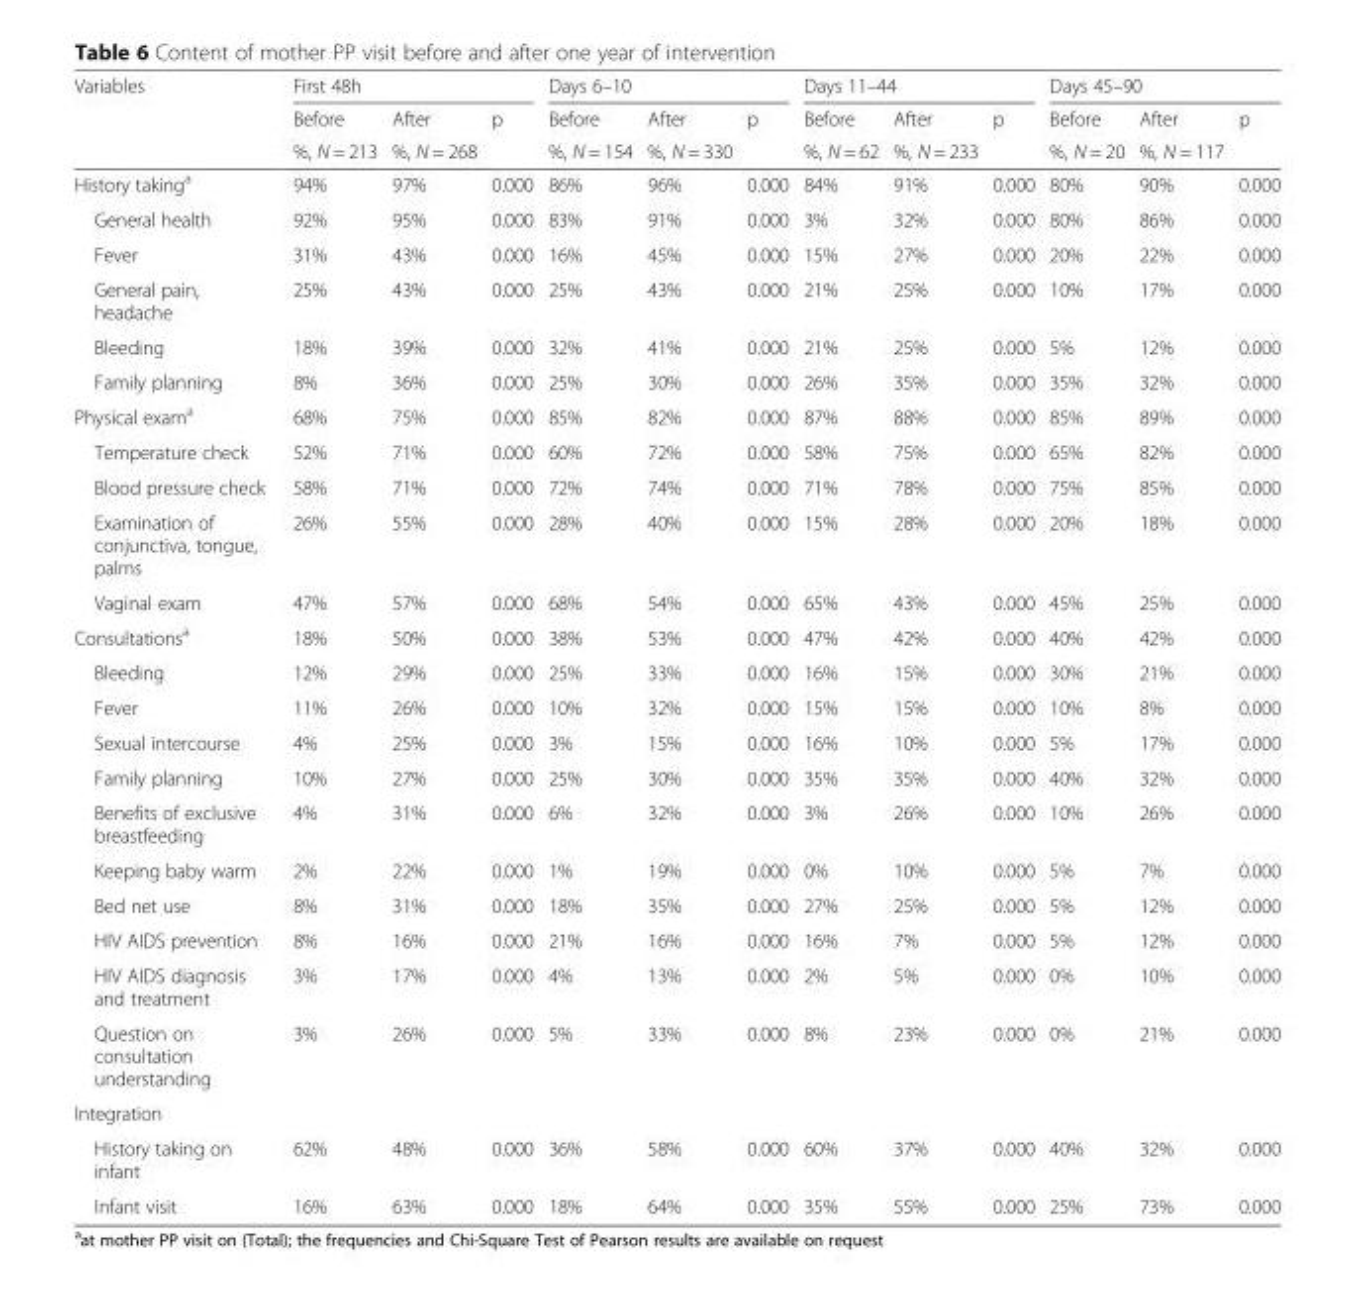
<table><thead><tr><td rowspan="3">Variables</td><td colspan="3">First 48h</td><td colspan="3">Days 6–10</td><td colspan="3">Days 11–44</td><td colspan="3">Days 45–90</td></tr><tr><td rowspan="2">Before %, N = 213</td><td rowspan="2">After %, N = 268</td><td rowspan="2">p</td><td rowspan="2">Before %, N = 154</td><td rowspan="2">After %, N = 330</td><td rowspan="2">p</td><td rowspan="2">Before %, N = 62</td><td rowspan="2">After %, N = 233</td><td rowspan="2">p</td><td rowspan="2">Before %, N = 20</td><td rowspan="2">After %, N = 117</td><td rowspan="2">p</td></tr><tr></tr></thead><tbody><tr><td>History taking<sup>a</sup></td><td>94%</td><td>97%</td><td>0.000</td><td>86%</td><td>96%</td><td>0.000</td><td>84%</td><td>91%</td><td>0.000</td><td>80%</td><td>90%</td><td>0.000</td></tr><tr><td>General health</td><td>92%</td><td>95%</td><td>0.000</td><td>83%</td><td>91%</td><td>0.000</td><td>3%</td><td>32%</td><td>0.000</td><td>80%</td><td>86%</td><td>0.000</td></tr><tr><td>Fever</td><td>31%</td><td>43%</td><td>0.000</td><td>16%</td><td>45%</td><td>0.000</td><td>15%</td><td>27%</td><td>0.000</td><td>20%</td><td>22%</td><td>0.000</td></tr><tr><td>General pain, headache</td><td>25%</td><td>43%</td><td>0.000</td><td>25%</td><td>43%</td><td>0.000</td><td>21%</td><td>25%</td><td>0.000</td><td>10%</td><td>17%</td><td>0.000</td></tr><tr><td>Bleeding</td><td>18%</td><td>39%</td><td>0.000</td><td>32%</td><td>41%</td><td>0.000</td><td>21%</td><td>25%</td><td>0.000</td><td>5%</td><td>12%</td><td>0.000</td></tr><tr><td>Family planning</td><td>8%</td><td>36%</td><td>0.000</td><td>25%</td><td>30%</td><td>0.000</td><td>26%</td><td>35%</td><td>0.000</td><td>35%</td><td>32%</td><td>0.000</td></tr><tr><td>Physical exam<sup>a</sup></td><td>68%</td><td>75%</td><td>0.000</td><td>85%</td><td>82%</td><td>0.000</td><td>87%</td><td>88%</td><td>0.000</td><td>85%</td><td>89%</td><td>0.000</td></tr><tr><td>Temperature check</td><td>52%</td><td>71%</td><td>0.000</td><td>60%</td><td>72%</td><td>0.000</td><td>58%</td><td>75%</td><td>0.000</td><td>65%</td><td>82%</td><td>0.000</td></tr><tr><td>Blood pressure check</td><td>58%</td><td>71%</td><td>0.000</td><td>72%</td><td>74%</td><td>0.000</td><td>71%</td><td>78%</td><td>0.000</td><td>75%</td><td>85%</td><td>0.000</td></tr><tr><td>Examination of conjunctiva, tongue, palms</td><td>26%</td><td>55%</td><td>0.000</td><td>28%</td><td>40%</td><td>0.000</td><td>15%</td><td>28%</td><td>0.000</td><td>20%</td><td>18%</td><td>0.000</td></tr><tr><td>Vaginal exam</td><td>47%</td><td>57%</td><td>0.000</td><td>68%</td><td>54%</td><td>0.000</td><td>65%</td><td>43%</td><td>0.000</td><td>45%</td><td>25%</td><td>0.000</td></tr><tr><td>Consultations<sup>a</sup></td><td>18%</td><td>50%</td><td>0.000</td><td>38%</td><td>53%</td><td>0.000</td><td>47%</td><td>42%</td><td>0.000</td><td>40%</td><td>42%</td><td>0.000</td></tr><tr><td>Bleeding</td><td>12%</td><td>29%</td><td>0.000</td><td>25%</td><td>33%</td><td>0.000</td><td>16%</td><td>15%</td><td>0.000</td><td>30%</td><td>21%</td><td>0.000</td></tr><tr><td>Fever</td><td>11%</td><td>26%</td><td>0.000</td><td>10%</td><td>32%</td><td>0.000</td><td>15%</td><td>15%</td><td>0.000</td><td>10%</td><td>8%</td><td>0.000</td></tr><tr><td>Sexual intercourse</td><td>4%</td><td>25%</td><td>0.000</td><td>3%</td><td>15%</td><td>0.000</td><td>16%</td><td>10%</td><td>0.000</td><td>5%</td><td>17%</td><td>0.000</td></tr><tr><td>Family planning</td><td>10%</td><td>27%</td><td>0.000</td><td>25%</td><td>30%</td><td>0.000</td><td>35%</td><td>35%</td><td>0.000</td><td>40%</td><td>32%</td><td>0.000</td></tr><tr><td>Benefits of exclusive breastfeeding</td><td>4%</td><td>31%</td><td>0.000</td><td>6%</td><td>32%</td><td>0.000</td><td>3%</td><td>26%</td><td>0.000</td><td>10%</td><td>26%</td><td>0.000</td></tr><tr><td>Keeping baby warm</td><td>2%</td><td>22%</td><td>0.000</td><td>1%</td><td>19%</td><td>0.000</td><td>0%</td><td>10%</td><td>0.000</td><td>5%</td><td>7%</td><td>0.000</td></tr><tr><td>Bed net use</td><td>8%</td><td>31%</td><td>0.000</td><td>18%</td><td>35%</td><td>0.000</td><td>27%</td><td>25%</td><td>0.000</td><td>5%</td><td>12%</td><td>0.000</td></tr><tr><td>HIV AIDS prevention</td><td>8%</td><td>16%</td><td>0.000</td><td>21%</td><td>16%</td><td>0.000</td><td>16%</td><td>7%</td><td>0.000</td><td>5%</td><td>12%</td><td>0.000</td></tr><tr><td>HIV AIDS diagnosis and treatment</td><td>3%</td><td>17%</td><td>0.000</td><td>4%</td><td>13%</td><td>0.000</td><td>2%</td><td>5%</td><td>0.000</td><td>0%</td><td>10%</td><td>0.000</td></tr><tr><td>Question on consultation understanding</td><td>3%</td><td>26%</td><td>0.000</td><td>5%</td><td>33%</td><td>0.000</td><td>8%</td><td>23%</td><td>0.000</td><td>0%</td><td>21%</td><td>0.000</td></tr><tr><td colspan="13">Integration</td></tr><tr><td>History taking on infant</td><td>62%</td><td>48%</td><td>0.000</td><td>36%</td><td>58%</td><td>0.000</td><td>60%</td><td>37%</td><td>0.000</td><td>40%</td><td>32%</td><td>0.000</td></tr><tr><td>Infant visit</td><td>16%</td><td>63%</td><td>0.000</td><td>18%</td><td>64%</td><td>0.000</td><td>35%</td><td>55%</td><td>0.000</td><td>25%</td><td>73%</td><td>0.000</td></tr></tbody></table>